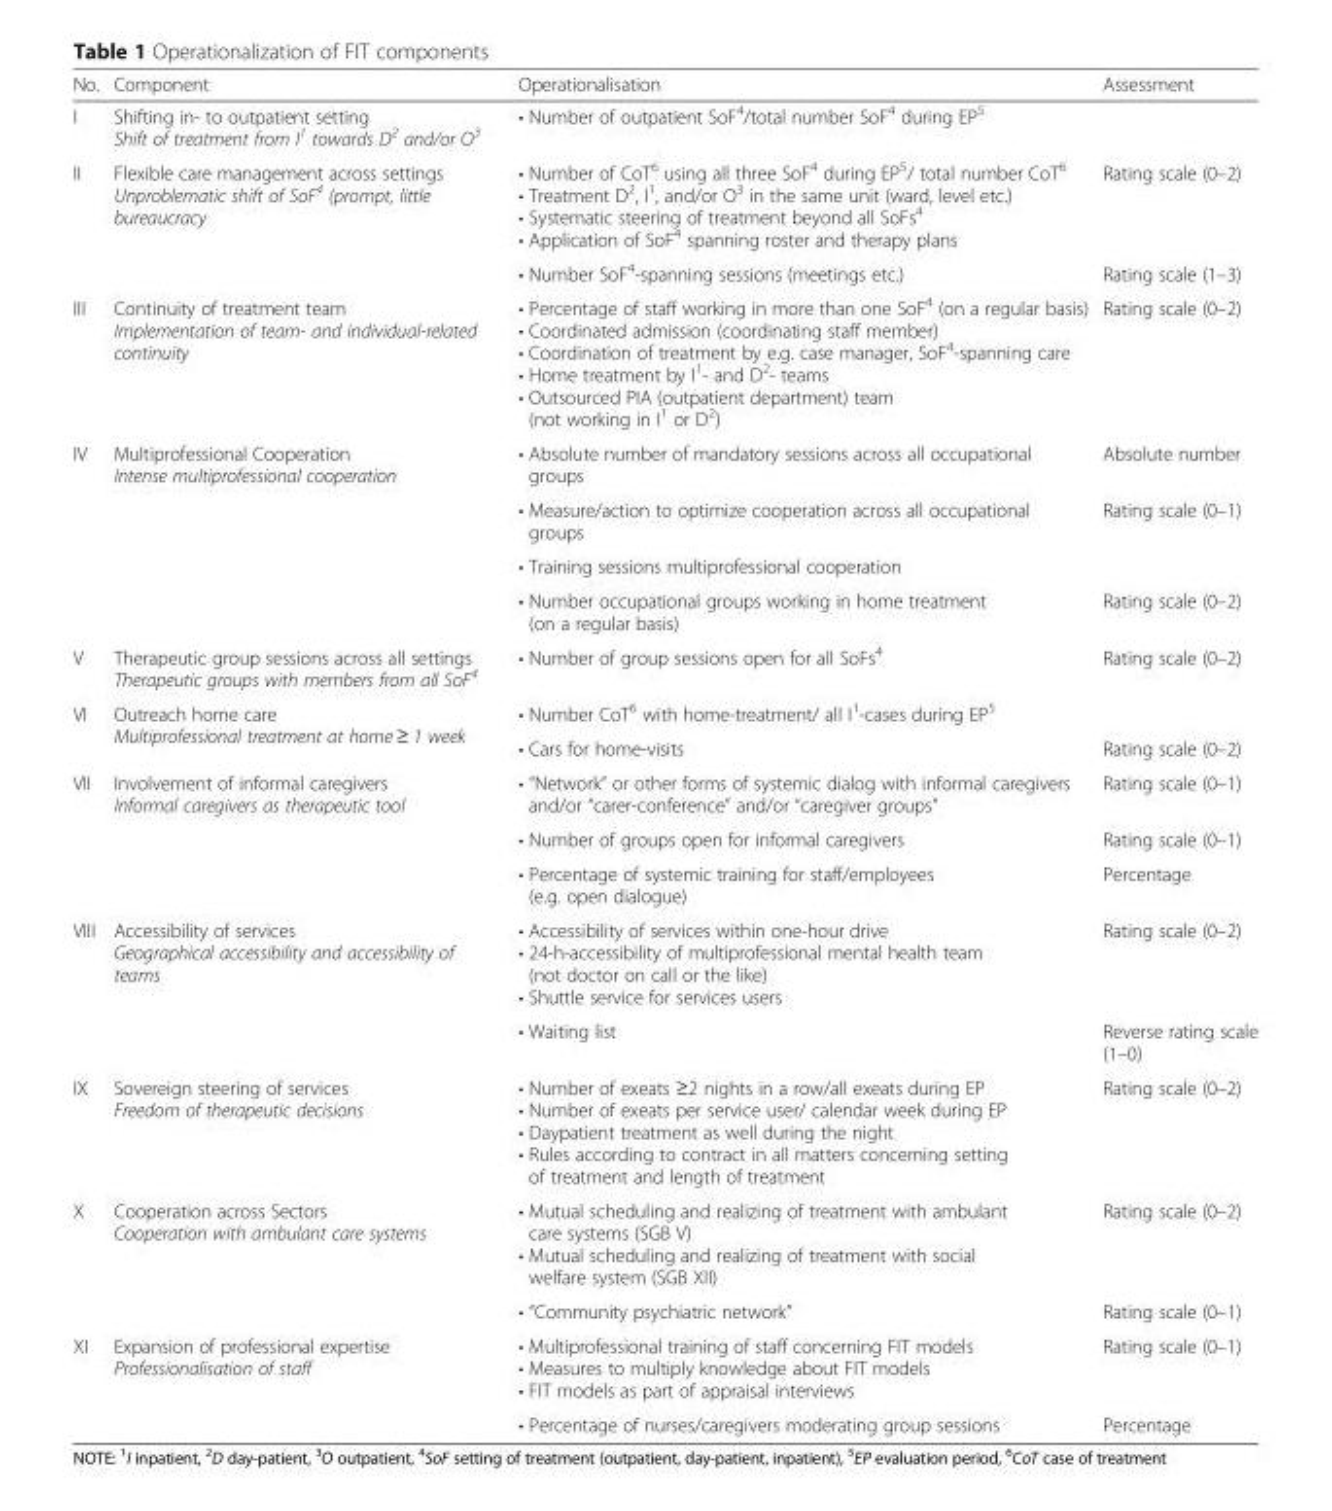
<table><thead><tr><td>No.</td><td>Component</td><td>Operationalisation</td><td>Assessment</td></tr></thead><tbody><tr><td>I</td><td>Shifting in- to outpatient setting Shift of treatment from I<sup>1</sup> towards D<sup>2</sup> and/or O<sup>3</sup></td><td>• Number of outpatient SoF<sup>4</sup>/total number SoF<sup>4</sup> during EP<sup>5</sup></td><td></td></tr><tr><td rowspan="2">II</td><td rowspan="2">Flexible care management across settings Unproblematic shift of SoF<sup>4</sup> (prompt, little bureaucracy</td><td>• Number of CoT<sup>6</sup> using all three SoF<sup>4</sup> during EP<sup>5</sup>/ total number CoT<sup>6</sup> • Treatment D<sup>2</sup>, I<sup>1</sup>, and/or O<sup>3</sup> in the same unit (ward, level etc.) • Systematic steering of treatment beyond all SoFs<sup>4</sup> • Application of SoF<sup>4</sup> spanning roster and therapy plans</td><td>Rating scale (0–2)</td></tr><tr><td>• Number SoF<sup>4</sup>-spanning sessions (meetings etc.)</td><td>Rating scale (1–3)</td></tr><tr><td>III</td><td>Continuity of treatment team Implementation of team- and individual-related continuity</td><td>• Percentage of staff working in more than one SoF<sup>4</sup> (on a regular basis) • Coordinated admission (coordinating staff member) • Coordination of treatment by e.g. case manager, SoF<sup>4</sup>-spanning care • Home treatment by I<sup>1</sup>- and D<sup>2</sup>- teams • Outsourced PIA (outpatient department) team (not working in I<sup>1</sup> or D<sup>2</sup>)</td><td>Rating scale (0–2)</td></tr><tr><td rowspan="4">IV</td><td rowspan="4">Multiprofessional Cooperation Intense multiprofessional cooperation</td><td>• Absolute number of mandatory sessions across all occupational groups</td><td>Absolute number</td></tr><tr><td>• Measure/action to optimize cooperation across all occupational groups</td><td rowspan="2">Rating scale (0–1)</td></tr><tr><td>• Training sessions multiprofessional cooperation</td></tr><tr><td>• Number occupational groups working in home treatment (on a regular basis)</td><td>Rating scale (0–2)</td></tr><tr><td>V</td><td>Therapeutic group sessions across all settings Therapeutic groups with members from all SoF<sup>4</sup></td><td>• Number of group sessions open for all SoFs<sup>4</sup></td><td>Rating scale (0–2)</td></tr><tr><td rowspan="2">VI</td><td rowspan="2">Outreach home care Multiprofessional treatment at home ≥ 1 week</td><td>• Number CoT<sup>6</sup> with home-treatment/ all I<sup>1</sup>-cases during EP<sup>5</sup></td><td></td></tr><tr><td>• Cars for home-visits</td><td>Rating scale (0–2)</td></tr><tr><td rowspan="3">VII</td><td rowspan="3">Involvement of informal caregivers Informal caregivers as therapeutic tool</td><td>• “Network” or other forms of systemic dialog with informal caregivers and/or “carer-conference” and/or “caregiver groups”</td><td>Rating scale (0–1)</td></tr><tr><td>• Number of groups open for informal caregivers</td><td>Rating scale (0–1)</td></tr><tr><td>• Percentage of systemic training for staff/employees (e.g. open dialogue)</td><td>Percentage</td></tr><tr><td rowspan="2">VIII</td><td rowspan="2">Accessibility of services Geographical accessibility and accessibility of teams</td><td>• Accessibility of services within one-hour drive • 24-h-accessibility of multiprofessional mental health team (not doctor on call or the like) • Shuttle service for services users</td><td>Rating scale (0–2)</td></tr><tr><td>• Waiting list</td><td>Reverse rating scale (1–0)</td></tr><tr><td>IX</td><td>Sovereign steering of services Freedom of therapeutic decisions</td><td>• Number of exeats ≥2 nights in a row/all exeats during EP • Number of exeats per service user/ calendar week during EP • Daypatient treatment as well during the night • Rules according to contract in all matters concerning setting of treatment and length of treatment</td><td>Rating scale (0–2)</td></tr><tr><td rowspan="2">X</td><td rowspan="2">Cooperation across Sectors Cooperation with ambulant care systems</td><td>• Mutual scheduling and realizing of treatment with ambulant care systems (SGB V) • Mutual scheduling and realizing of treatment with social welfare system (SGB XII)</td><td>Rating scale (0–2)</td></tr><tr><td>• “Community psychiatric network”</td><td>Rating scale (0–1)</td></tr><tr><td rowspan="2">XI</td><td rowspan="2">Expansion of professional expertise Professionalisation of staff</td><td>• Multiprofessional training of staff concerning FIT models • Measures to multiply knowledge about FIT models • FIT models as part of appraisal interviews</td><td>Rating scale (0–1)</td></tr><tr><td>• Percentage of nurses/caregivers moderating group sessions</td><td>Percentage</td></tr></tbody></table>